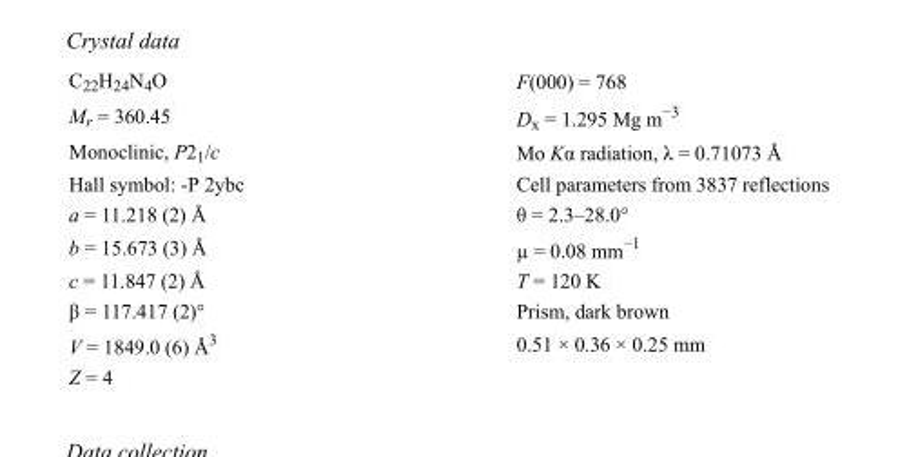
<table><tbody><tr><td>C<sub>22</sub>H<sub>24</sub>N<sub>4</sub>O</td><td>F(000) = 768</td></tr><tr><td>M<sub>r</sub> = 360.45</td><td>D<sub>x</sub> = 1.295 Mg m<sup>−3</sup></td></tr><tr><td>Monoclinic, P2<sub>1</sub>/c</td><td>Mo Kα radiation, λ = 0.71073 Å</td></tr><tr><td>Hall symbol: -P 2ybc</td><td>Cell parameters from 3837 reflections</td></tr><tr><td>a = 11.218 (2) Å</td><td>θ = 2.3–28.0°</td></tr><tr><td>b = 15.673 (3) Å</td><td>µ = 0.08 mm<sup>−1</sup></td></tr><tr><td>c = 11.847 (2) Å</td><td>T = 120 K</td></tr><tr><td>β = 117.417 (2)°</td><td>Prism, dark brown</td></tr><tr><td>V = 1849.0 (6) Å<sup>3</sup></td><td>0.51 × 0.36 × 0.25 mm</td></tr><tr><td>Z = 4</td><td></td></tr></tbody></table>